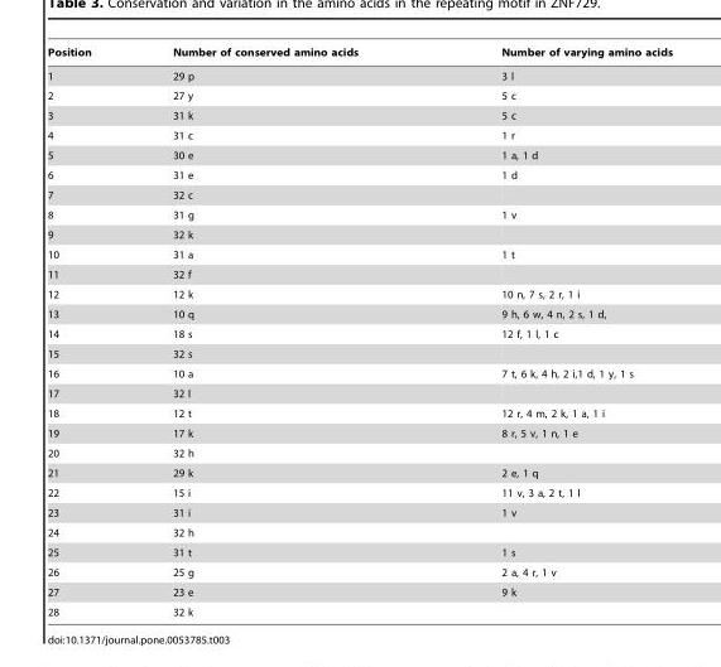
<table><thead><tr><td>Position</td><td>Number of conserved amino acids</td><td>Number of varying amino acids</td></tr></thead><tbody><tr><td>1</td><td>29 p</td><td>3 l</td></tr><tr><td>2</td><td>27 y</td><td>5 c</td></tr><tr><td>3</td><td>31 k</td><td>5 c</td></tr><tr><td>4</td><td>31 c</td><td>1 r</td></tr><tr><td>5</td><td>30 e</td><td>1 a, 1 d</td></tr><tr><td>6</td><td>31 e</td><td>1 d</td></tr><tr><td>7</td><td>32 c</td><td></td></tr><tr><td>8</td><td>31 g</td><td>1 v</td></tr><tr><td>9</td><td>32 k</td><td></td></tr><tr><td>10</td><td>31 a</td><td>1 t</td></tr><tr><td>11</td><td>32 f</td><td></td></tr><tr><td>12</td><td>12 k</td><td>10 n, 7 s, 2 r, 1 i</td></tr><tr><td>13</td><td>10 q</td><td>9 h, 6 w, 4 n, 2 s, 1 d,</td></tr><tr><td>14</td><td>18 s</td><td>12 f, 1 l, 1 c</td></tr><tr><td>15</td><td>32 s</td><td></td></tr><tr><td>16</td><td>10 a</td><td>7 t, 6 k, 4 h, 2 i,1 d, 1 y, 1 s</td></tr><tr><td>17</td><td>32 l</td><td></td></tr><tr><td>18</td><td>12 t</td><td>12 r, 4 m, 2 k, 1 a, 1 i</td></tr><tr><td>19</td><td>17 k</td><td>8 r, 5 v, 1 n, 1 e</td></tr><tr><td>20</td><td>32 h</td><td></td></tr><tr><td>21</td><td>29 k</td><td>2 e, 1 q</td></tr><tr><td>22</td><td>15 i</td><td>11 v, 3 a, 2 t, 1 l</td></tr><tr><td>23</td><td>31 i</td><td>1 v</td></tr><tr><td>24</td><td>32 h</td><td></td></tr><tr><td>25</td><td>31 t</td><td>1 s</td></tr><tr><td>26</td><td>25 g</td><td>2 a, 4 r, 1 v</td></tr><tr><td>27</td><td>23 e</td><td>9 k</td></tr><tr><td>28</td><td>32 k</td><td></td></tr></tbody></table>